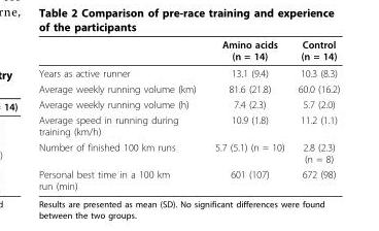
<table><thead><tr><td></td><td>Amino acids (n = 14)</td><td>Control (n = 14)</td></tr></thead><tbody><tr><td>Years as active runner</td><td>13.1 (9.4)</td><td>10.3 (8.3)</td></tr><tr><td>Average weekly running volume (km)</td><td>81.6 (21.8)</td><td>60.0 (16.2)</td></tr><tr><td>Average weekly running volume (h)</td><td>7.4 (2.3)</td><td>5.7 (2.0)</td></tr><tr><td>Average speed in running during training (km/h)</td><td>10.9 (1.8)</td><td>11.2 (1.1)</td></tr><tr><td>Number of finished 100 km runs</td><td>5.7 (5.1) (n = 10)</td><td>2.8 (2.3) (n = 8)</td></tr><tr><td>Personal best time in a 100 km run (min)</td><td>601 (107)</td><td>672 (98)</td></tr></tbody></table>